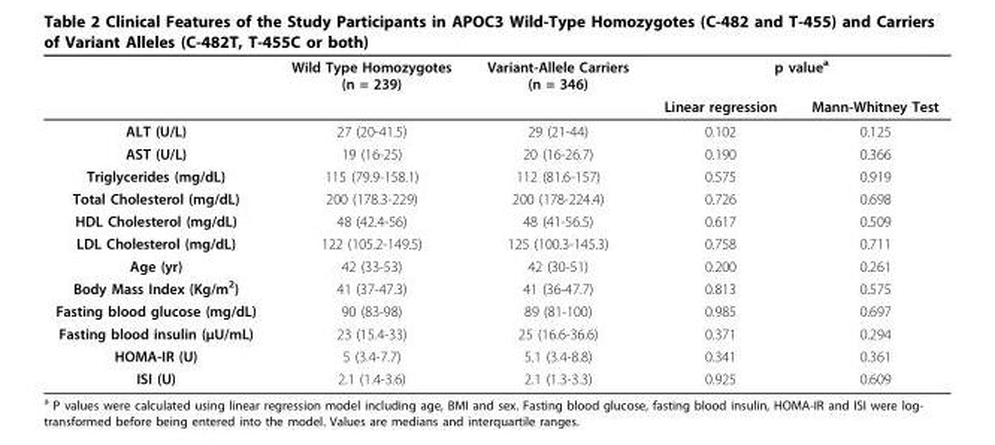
<table><thead><tr><td rowspan="2"></td><td rowspan="2">Wild Type Homozygotes (n = 239)</td><td rowspan="2">Variant-Allele Carriers (n = 346)</td><td colspan="2">p value<sup>a</sup></td></tr><tr><td>Linear regression</td><td>Mann-Whitney Test</td></tr></thead><tbody><tr><td>ALT (U/L)</td><td>27 (20-41.5)</td><td>29 (21-44)</td><td>0.102</td><td>0.125</td></tr><tr><td>AST (U/L)</td><td>19 (16-25)</td><td>20 (16-26.7)</td><td>0.190</td><td>0.366</td></tr><tr><td>Triglycerides (mg/dL)</td><td>115 (79.9-158.1)</td><td>112 (81.6-157)</td><td>0.575</td><td>0.919</td></tr><tr><td>Total Cholesterol (mg/dL)</td><td>200 (178.3-229)</td><td>200 (178-224.4)</td><td>0.726</td><td>0.698</td></tr><tr><td>HDL Cholesterol (mg/dL)</td><td>48 (42.4-56)</td><td>48 (41-56.5)</td><td>0.617</td><td>0.509</td></tr><tr><td>LDL Cholesterol (mg/dL)</td><td>122 (105.2-149.5)</td><td>125 (100.3-145.3)</td><td>0.758</td><td>0.711</td></tr><tr><td>Age (yr)</td><td>42 (33-53)</td><td>42 (30-51)</td><td>0.200</td><td>0.261</td></tr><tr><td>Body Mass Index (Kg/m<sup>2</sup>)</td><td>41 (37-47.3)</td><td>41 (36-47.7)</td><td>0.813</td><td>0.575</td></tr><tr><td>Fasting blood glucose (mg/dL)</td><td>90 (83-98)</td><td>89 (81-100)</td><td>0.985</td><td>0.697</td></tr><tr><td>Fasting blood insulin (μU/mL)</td><td>23 (15.4-33)</td><td>25 (16.6-36.6)</td><td>0.371</td><td>0.294</td></tr><tr><td>HOMA-IR (U)</td><td>5 (3.4-7.7)</td><td>5.1 (3.4-8.8)</td><td>0.341</td><td>0.361</td></tr><tr><td>ISI (U)</td><td>2.1 (1.4-3.6)</td><td>2.1 (1.3-3.3)</td><td>0.925</td><td>0.609</td></tr></tbody></table>